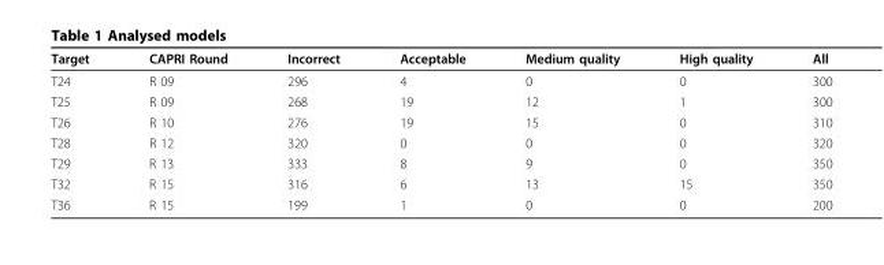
<table><thead><tr><td>Target</td><td>CAPRI Round</td><td>Incorrect</td><td>Acceptable</td><td>Medium quality</td><td>High quality</td><td>All</td></tr></thead><tbody><tr><td>T24</td><td>R 09</td><td>296</td><td>4</td><td>0</td><td>0</td><td>300</td></tr><tr><td>T25</td><td>R 09</td><td>268</td><td>19</td><td>12</td><td>1</td><td>300</td></tr><tr><td>T26</td><td>R 10</td><td>276</td><td>19</td><td>15</td><td>0</td><td>310</td></tr><tr><td>T28</td><td>R 12</td><td>320</td><td>0</td><td>0</td><td>0</td><td>320</td></tr><tr><td>T29</td><td>R 13</td><td>333</td><td>8</td><td>9</td><td>0</td><td>350</td></tr><tr><td>T32</td><td>R 15</td><td>316</td><td>6</td><td>13</td><td>15</td><td>350</td></tr><tr><td>T36</td><td>R 15</td><td>199</td><td>1</td><td>0</td><td>0</td><td>200</td></tr></tbody></table>